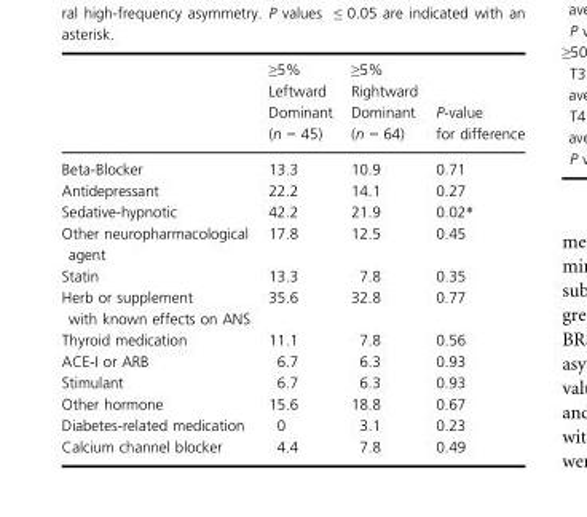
<table><thead><tr><td></td><td>≥5% Leftward Dominant (n = 45)</td><td>≥5% Rightward Dominant (n = 64)</td><td>P-value for difference</td></tr></thead><tbody><tr><td>Beta-Blocker</td><td>13.3</td><td>10.9</td><td>0.71</td></tr><tr><td>Antidepressant</td><td>22.2</td><td>14.1</td><td>0.27</td></tr><tr><td>Sedative-hypnotic</td><td>42.2</td><td>21.9</td><td>0.02*</td></tr><tr><td>Other neuropharmacological agent</td><td>17.8</td><td>12.5</td><td>0.45</td></tr><tr><td>Statin</td><td>13.3</td><td>7.8</td><td>0.35</td></tr><tr><td>Herb or supplement with known effects on ANS</td><td>35.6</td><td>32.8</td><td>0.77</td></tr><tr><td>Thyroid medication</td><td>11.1</td><td>7.8</td><td>0.56</td></tr><tr><td>ACE-I or ARB</td><td>6.7</td><td>6.3</td><td>0.93</td></tr><tr><td>Stimulant</td><td>6.7</td><td>6.3</td><td>0.93</td></tr><tr><td>Other hormone</td><td>15.6</td><td>18.8</td><td>0.67</td></tr><tr><td>Diabetes-related medication</td><td>0</td><td>3.1</td><td>0.23</td></tr><tr><td>Calcium channel blocker</td><td>4.4</td><td>7.8</td><td>0.49</td></tr></tbody></table>